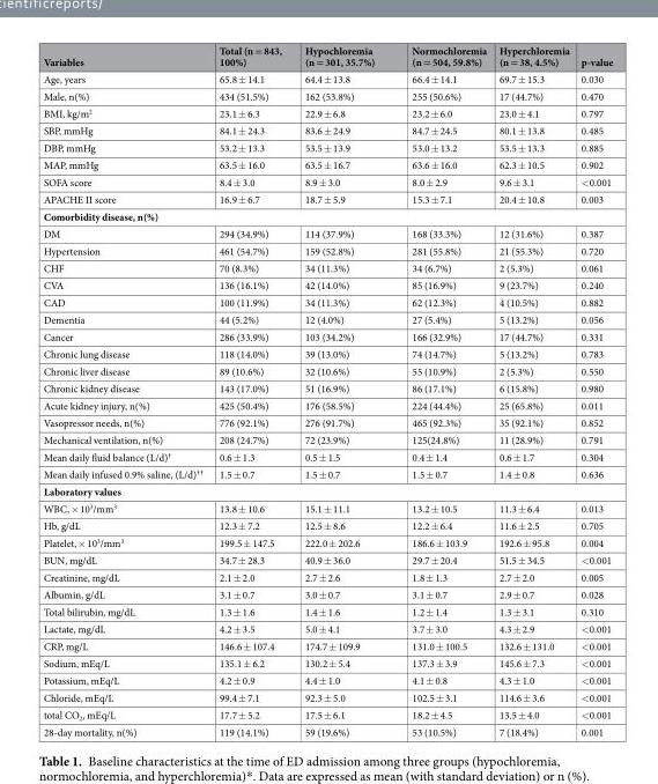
<table><thead><tr><td>Variables</td><td>Total (n = 843, 100%)</td><td>Hypochloremia (n = 301, 35.7%)</td><td>Normochloremia (n = 504, 59.8%)</td><td>Hyperchloremia (n = 38, 4.5%)</td><td>p-value</td></tr></thead><tbody><tr><td>Age, years</td><td>65.8 ± 14.1</td><td>64.4 ± 13.8</td><td>66.4 ± 14.1</td><td>69.7 ± 15.3</td><td>0.030</td></tr><tr><td>Male, n(%)</td><td>434 (51.5%)</td><td>162 (53.8%)</td><td>255 (50.6%)</td><td>17 (44.7%)</td><td>0.470</td></tr><tr><td>BMI, kg/m<sup>2</sup></td><td>23.1 ± 6.3</td><td>22.9 ± 6.8</td><td>23.2 ± 6.0</td><td>23.0 ± 4.1</td><td>0.797</td></tr><tr><td>SBP, mmHg</td><td>84.1 ± 24.3</td><td>83.6 ± 24.9</td><td>84.7 ± 24.5</td><td>80.1 ± 13.8</td><td>0.485</td></tr><tr><td>DBP, mmHg</td><td>53.2 ± 13.3</td><td>53.5 ± 13.9</td><td>53.0 ± 13.2</td><td>53.5 ± 13.3</td><td>0.885</td></tr><tr><td>MAP, mmHg</td><td>63.5 ± 16.0</td><td>63.5 ± 16.7</td><td>63.6 ± 16.0</td><td>62.3 ± 10.5</td><td>0.902</td></tr><tr><td>SOFA score</td><td>8.4 ± 3.0</td><td>8.9 ± 3.0</td><td>8.0 ± 2.9</td><td>9.6 ± 3.1</td><td>&lt;0.001</td></tr><tr><td>APACHE II score</td><td>16.9 ± 6.7</td><td>18.7 ± 5.9</td><td>15.3 ± 7.1</td><td>20.4 ± 10.8</td><td>0.003</td></tr><tr><td colspan="6">Comorbidity disease, n(%)</td></tr><tr><td>DM</td><td>294 (34.9%)</td><td>114 (37.9%)</td><td>168 (33.3%)</td><td>12 (31.6%)</td><td>0.387</td></tr><tr><td>Hypertension</td><td>461 (54.7%)</td><td>159 (52.8%)</td><td>281 (55.8%)</td><td>21 (55.3%)</td><td>0.720</td></tr><tr><td>CHF</td><td>70 (8.3%)</td><td>34 (11.3%)</td><td>34 (6.7%)</td><td>2 (5.3%)</td><td>0.061</td></tr><tr><td>CVA</td><td>136 (16.1%)</td><td>42 (14.0%)</td><td>85 (16.9%)</td><td>9 (23.7%)</td><td>0.240</td></tr><tr><td>CAD</td><td>100 (11.9%)</td><td>34 (11.3%)</td><td>62 (12.3%)</td><td>4 (10.5%)</td><td>0.882</td></tr><tr><td>Dementia</td><td>44 (5.2%)</td><td>12 (4.0%)</td><td>27 (5.4%)</td><td>5 (13.2%)</td><td>0.056</td></tr><tr><td>Cancer</td><td>286 (33.9%)</td><td>103 (34.2%)</td><td>166 (32.9%)</td><td>17 (44.7%)</td><td>0.331</td></tr><tr><td>Chronic lung disease</td><td>118 (14.0%)</td><td>39 (13.0%)</td><td>74 (14.7%)</td><td>5 (13.2%)</td><td>0.783</td></tr><tr><td>Chronic liver disease</td><td>89 (10.6%)</td><td>32 (10.6%)</td><td>55 (10.9%)</td><td>2 (5.3%)</td><td>0.550</td></tr><tr><td>Chronic kidney disease</td><td>143 (17.0%)</td><td>51 (16.9%)</td><td>86 (17.1%)</td><td>6 (15.8%)</td><td>0.980</td></tr><tr><td>Acute kidney injury, n(%)</td><td>425 (50.4%)</td><td>176 (58.5%)</td><td>224 (44.4%)</td><td>25 (65.8%)</td><td>0.011</td></tr><tr><td>Vasopressor needs, n(%)</td><td>776 (92.1%)</td><td>276 (91.7%)</td><td>465 (92.3%)</td><td>35 (92.1%)</td><td>0.852</td></tr><tr><td>Mechanical ventilation, n(%)</td><td>208 (24.7%)</td><td>72 (23.9%)</td><td>125(24.8%)</td><td>11 (28.9%)</td><td>0.791</td></tr><tr><td>Mean daily fluid balance (L/d)<sup>†</sup></td><td>0.6 ± 1.3</td><td>0.5 ± 1.5</td><td>0.4 ± 1.4</td><td>0.6 ± 1.7</td><td>0.304</td></tr><tr><td>Mean daily infused 0.9% saline, (L/d)<sup>††</sup></td><td>1.5 ± 0.7</td><td>1.5 ± 0.7</td><td>1.5 ± 0.7</td><td>1.4 ± 0.8</td><td>0.636</td></tr><tr><td colspan="6">Laboratory values</td></tr><tr><td>WBC, × 10<sup>3</sup>/mm<sup>3</sup></td><td>13.8 ± 10.6</td><td>15.1 ± 11.1</td><td>13.2 ± 10.5</td><td>11.3 ± 6.4</td><td>0.013</td></tr><tr><td>Hb, g/dL</td><td>12.3 ± 7.2</td><td>12.5 ± 8.6</td><td>12.2 ± 6.4</td><td>11.6 ± 2.5</td><td>0.705</td></tr><tr><td>Platelet, × 10<sup>3</sup>/mm<sup>3</sup></td><td>199.5 ± 147.5</td><td>222.0 ± 202.6</td><td>186.6 ± 103.9</td><td>192.6 ± 95.8</td><td>0.004</td></tr><tr><td>BUN, mg/dL</td><td>34.7 ± 28.3</td><td>40.9 ± 36.0</td><td>29.7 ± 20.4</td><td>51.5 ± 34.5</td><td>&lt;0.001</td></tr><tr><td>Creatinine, mg/dL</td><td>2.1 ± 2.0</td><td>2.7 ± 2.6</td><td>1.8 ± 1.3</td><td>2.7 ± 2.0</td><td>0.005</td></tr><tr><td>Albumin, g/dL</td><td>3.1 ± 0.7</td><td>3.0 ± 0.7</td><td>3.1 ± 0.7</td><td>2.9 ± 0.7</td><td>0.028</td></tr><tr><td>Total bilirubin, mg/dL</td><td>1.3 ± 1.6</td><td>1.4 ± 1.6</td><td>1.2 ± 1.4</td><td>1.3 ± 3.1</td><td>0.310</td></tr><tr><td>Lactate, mg/dL</td><td>4.2 ± 3.5</td><td>5.0 ± 4.1</td><td>3.7 ± 3.0</td><td>4.3 ± 2.9</td><td>&lt;0.001</td></tr><tr><td>CRP, mg/L</td><td>146.6 ± 107.4</td><td>174.7 ± 109.9</td><td>131.0 ± 100.5</td><td>132.6 ± 131.0</td><td>&lt;0.001</td></tr><tr><td>Sodium, mEq/L</td><td>135.1 ± 6.2</td><td>130.2 ± 5.4</td><td>137.3 ± 3.9</td><td>145.6 ± 7.3</td><td>&lt;0.001</td></tr><tr><td>Potassium, mEq/L</td><td>4.2 ± 0.9</td><td>4.4 ± 1.0</td><td>4.1 ± 0.8</td><td>4.3 ± 1.0</td><td>&lt;0.001</td></tr><tr><td>Chloride, mEq/L</td><td>99.4 ± 7.1</td><td>92.3 ± 5.0</td><td>102.5 ± 3.1</td><td>114.6 ± 3.6</td><td>&lt;0.001</td></tr><tr><td>total CO<sub>2</sub>, mEq/L</td><td>17.7 ± 5.2</td><td>17.5 ± 6.1</td><td>18.2 ± 4.5</td><td>13.5 ± 4.0</td><td>&lt;0.001</td></tr><tr><td>28-day mortality, n(%)</td><td>119 (14.1%)</td><td>59 (19.6%)</td><td>53 (10.5%)</td><td>7 (18.4%)</td><td>0.001</td></tr></tbody></table>